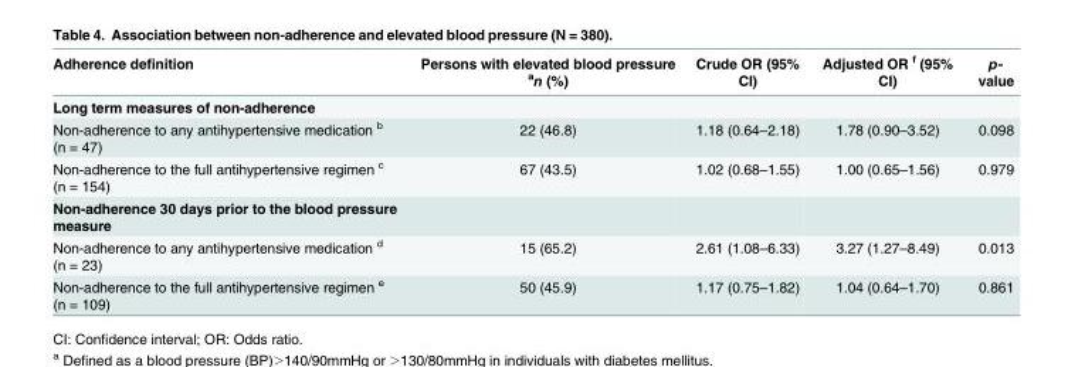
<table><thead><tr><td>Adherence definition</td><td>Persons with elevated blood pressure <sup>a</sup>n (%)</td><td>Crude OR (95% CI)</td><td>Adjusted OR <sup>f</sup> (95% CI)</td><td>p- value</td></tr></thead><tbody><tr><td colspan="5">Long term measures of non-adherence</td></tr><tr><td>Non-adherence to any antihypertensive medication <sup>b</sup> (n = 47)</td><td>22 (46.8)</td><td>1.18 (0.64–2.18)</td><td>1.78 (0.90–3.52)</td><td>0.098</td></tr><tr><td>Non-adherence to the full antihypertensive regimen <sup>c</sup> (n = 154)</td><td>67 (43.5)</td><td>1.02 (0.68–1.55)</td><td>1.00 (0.65–1.56)</td><td>0.979</td></tr><tr><td colspan="5">Non-adherence 30 days prior to the blood pressure measure</td></tr><tr><td>Non-adherence to any antihypertensive medication <sup>d</sup> (n = 23)</td><td>15 (65.2)</td><td>2.61 (1.08–6.33)</td><td>3.27 (1.27–8.49)</td><td>0.013</td></tr><tr><td>Non-adherence to the full antihypertensive regimen <sup>e</sup> (n = 109)</td><td>50 (45.9)</td><td>1.17 (0.75–1.82)</td><td>1.04 (0.64–1.70)</td><td>0.861</td></tr></tbody></table>